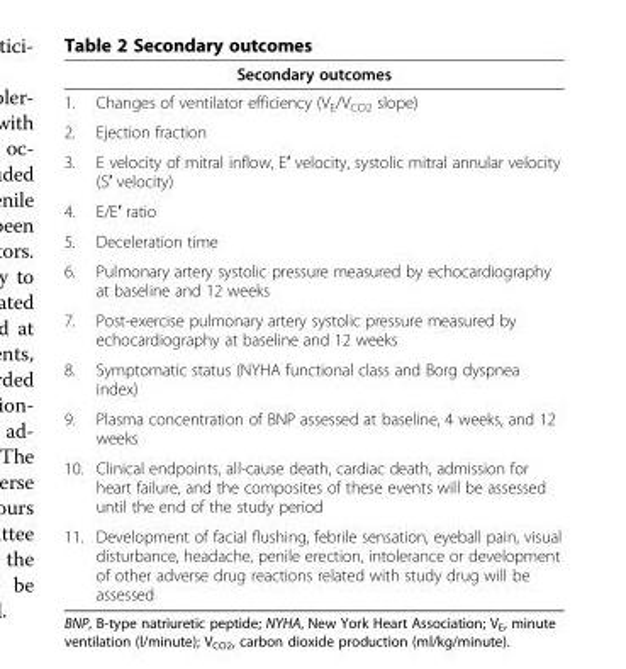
<table><thead><tr><td></td><td>Secondary outcomes</td></tr></thead><tbody><tr><td>1.</td><td>Changes of ventilator efficiency (V<sub>E</sub>/V<sub>CO2</sub> slope)</td></tr><tr><td>2.</td><td>Ejection fraction</td></tr><tr><td>3.</td><td>E velocity of mitral inflow, E′ velocity, systolic mitral annular velocity (S′ velocity)</td></tr><tr><td>4.</td><td>E/E′ ratio</td></tr><tr><td>5.</td><td>Deceleration time</td></tr><tr><td>6.</td><td>Pulmonary artery systolic pressure measured by echocardiography at baseline and 12 weeks</td></tr><tr><td>7.</td><td>Post-exercise pulmonary artery systolic pressure measured by echocardiography at baseline and 12 weeks</td></tr><tr><td>8.</td><td>Symptomatic status (NYHA functional class and Borg dyspnea index)</td></tr><tr><td>9.</td><td>Plasma concentration of BNP assessed at baseline, 4 weeks, and 12 weeks</td></tr><tr><td>10.</td><td>Clinical endpoints, all-cause death, cardiac death, admission for heart failure, and the composites of these events will be assessed until the end of the study period</td></tr><tr><td>11.</td><td>Development of facial flushing, febrile sensation, eyeball pain, visual disturbance, headache, penile erection, intolerance or development of other adverse drug reactions related with study drug will be assessed</td></tr></tbody></table>